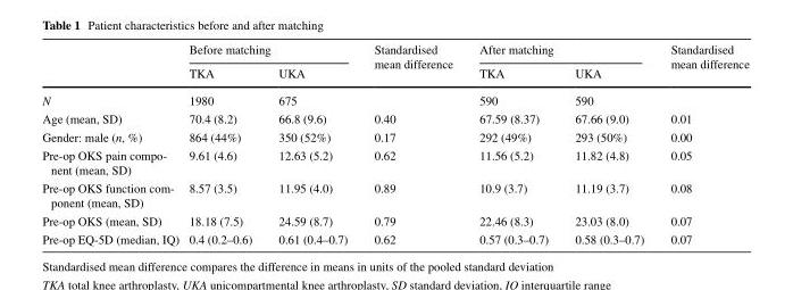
<table><thead><tr><td rowspan="2"></td><td colspan="2">Before matching</td><td rowspan="2">Standardised mean difference</td><td colspan="2">After matching</td><td rowspan="2">Standardised mean difference</td></tr><tr><td>TKA</td><td>UKA</td><td>TKA</td><td>UKA</td></tr></thead><tbody><tr><td>N</td><td>1980</td><td>675</td><td></td><td>590</td><td>590</td><td></td></tr><tr><td>Age (mean, SD)</td><td>70.4 (8.2)</td><td>66.8 (9.6)</td><td>0.40</td><td>67.59 (8.37)</td><td>67.66 (9.0)</td><td>0.01</td></tr><tr><td>Gender: male (n, %)</td><td>864 (44%)</td><td>350 (52%)</td><td>0.17</td><td>292 (49%)</td><td>293 (50%)</td><td>0.00</td></tr><tr><td>Pre-op OKS pain compo- nent (mean, SD)</td><td>9.61 (4.6)</td><td>12.63 (5.2)</td><td>0.62</td><td>11.56 (5.2)</td><td>11.82 (4.8)</td><td>0.05</td></tr><tr><td>Pre-op OKS function com- ponent (mean, SD)</td><td>8.57 (3.5)</td><td>11.95 (4.0)</td><td>0.89</td><td>10.9 (3.7)</td><td>11.19 (3.7)</td><td>0.08</td></tr><tr><td>Pre-op OKS (mean, SD)</td><td>18.18 (7.5)</td><td>24.59 (8.7)</td><td>0.79</td><td>22.46 (8.3)</td><td>23.03 (8.0)</td><td>0.07</td></tr><tr><td>Pre-op EQ-5D (median, IQ)</td><td>0.4 (0.2–0.6)</td><td>0.61 (0.4–0.7)</td><td>0.62</td><td>0.57 (0.3–0.7)</td><td>0.58 (0.3–0.7)</td><td>0.07</td></tr></tbody></table>